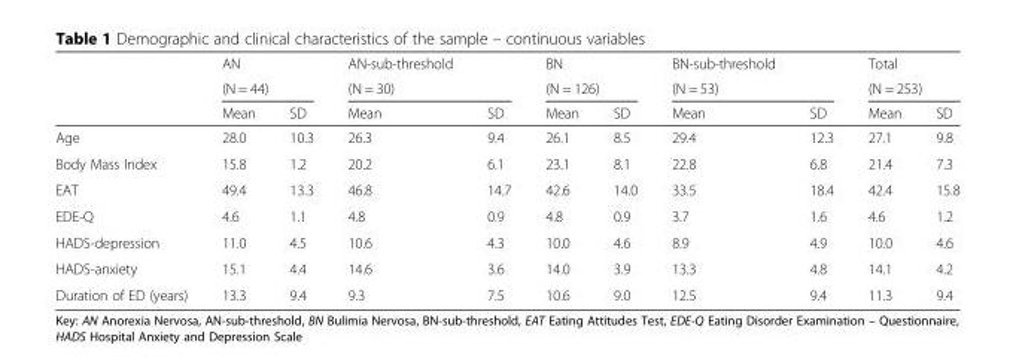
<table><thead><tr><td rowspan="3"></td><td>AN</td><td></td><td>AN-sub-threshold</td><td></td><td>BN</td><td></td><td>BN-sub-threshold</td><td></td><td>Total</td><td></td></tr><tr><td colspan="2">(N = 44)</td><td colspan="2">(N = 30)</td><td colspan="2">(N = 126)</td><td colspan="2">(N = 53)</td><td colspan="2">(N = 253)</td></tr><tr><td>Mean</td><td>SD</td><td>Mean</td><td>SD</td><td>Mean</td><td>SD</td><td>Mean</td><td>SD</td><td>Mean</td><td>SD</td></tr></thead><tbody><tr><td>Age</td><td>28.0</td><td>10.3</td><td>26.3</td><td>9.4</td><td>26.1</td><td>8.5</td><td>29.4</td><td>12.3</td><td>27.1</td><td>9.8</td></tr><tr><td>Body Mass Index</td><td>15.8</td><td>1.2</td><td>20.2</td><td>6.1</td><td>23.1</td><td>8.1</td><td>22.8</td><td>6.8</td><td>21.4</td><td>7.3</td></tr><tr><td>EAT</td><td>49.4</td><td>13.3</td><td>46.8</td><td>14.7</td><td>42.6</td><td>14.0</td><td>33.5</td><td>18.4</td><td>42.4</td><td>15.8</td></tr><tr><td>EDE-Q</td><td>4.6</td><td>1.1</td><td>4.8</td><td>0.9</td><td>4.8</td><td>0.9</td><td>3.7</td><td>1.6</td><td>4.6</td><td>1.2</td></tr><tr><td>HADS-depression</td><td>11.0</td><td>4.5</td><td>10.6</td><td>4.3</td><td>10.0</td><td>4.6</td><td>8.9</td><td>4.9</td><td>10.0</td><td>4.6</td></tr><tr><td>HADS-anxiety</td><td>15.1</td><td>4.4</td><td>14.6</td><td>3.6</td><td>14.0</td><td>3.9</td><td>13.3</td><td>4.8</td><td>14.1</td><td>4.2</td></tr><tr><td>Duration of ED (years)</td><td>13.3</td><td>9.4</td><td>9.3</td><td>7.5</td><td>10.6</td><td>9.0</td><td>12.5</td><td>9.4</td><td>11.3</td><td>9.4</td></tr></tbody></table>